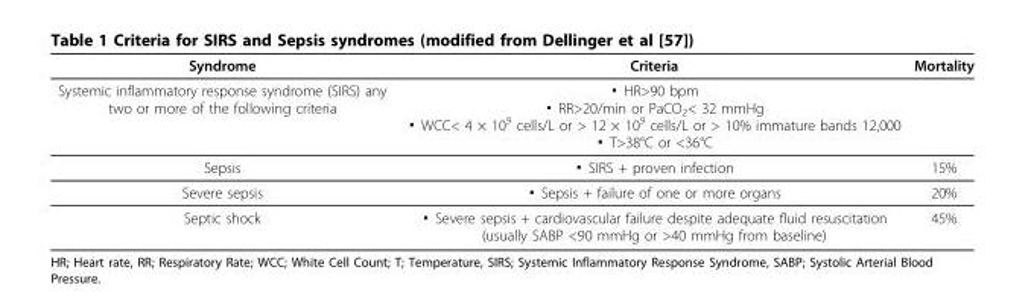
<table><thead><tr><td>Syndrome</td><td>Criteria</td><td>Mortality</td></tr></thead><tbody><tr><td>Systemic inflammatory response syndrome (SIRS) any two or more of the following criteria</td><td>▪ HR&gt;90 bpm ▪ RR&gt;20/min or PaCO<sub>2</sub>&lt; 32 mmHg ▪ WCC&lt; 4 × 10<sup>9</sup> cells/L or &gt; 12 × 10<sup>9</sup> cells/L or &gt; 10% immature bands 12,000 ▪ T&gt;38°C or &lt;36°C</td><td></td></tr><tr><td>Sepsis</td><td>▪ SIRS + proven infection</td><td>15%</td></tr><tr><td>Severe sepsis</td><td>▪ Sepsis + failure of one or more organs</td><td>20%</td></tr><tr><td>Septic shock</td><td>▪ Severe sepsis + cardiovascular failure despite adequate fluid resuscitation (usually SABP &lt;90 mmHg or &gt;40 mmHg from baseline)</td><td>45%</td></tr></tbody></table>